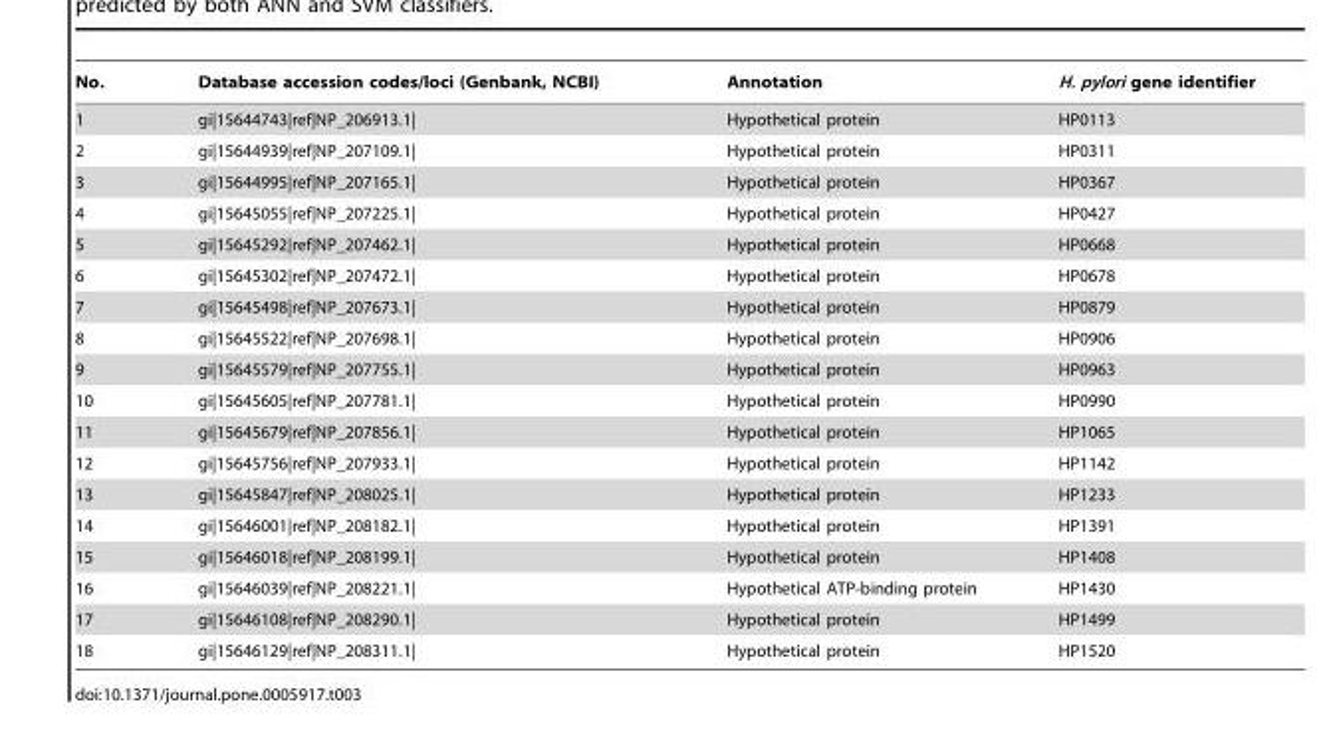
<table><thead><tr><td>No.</td><td>Database accession codes/loci (Genbank, NCBI)</td><td>Annotation</td><td>H. pylori gene identifier</td></tr></thead><tbody><tr><td>1</td><td>gi|15644743|ref|NP_206913.1|</td><td>Hypothetical protein</td><td>HP0113</td></tr><tr><td>2</td><td>gi|15644939|ref|NP_207109.1|</td><td>Hypothetical protein</td><td>HP0311</td></tr><tr><td>3</td><td>gi|15644995|ref|NP_207165.1|</td><td>Hypothetical protein</td><td>HP0367</td></tr><tr><td>4</td><td>gi|15645055|ref|NP_207225.1|</td><td>Hypothetical protein</td><td>HP0427</td></tr><tr><td>5</td><td>gi|15645292|ref|NP_207462.1|</td><td>Hypothetical protein</td><td>HP0668</td></tr><tr><td>6</td><td>gi|15645302|ref|NP_207472.1|</td><td>Hypothetical protein</td><td>HP0678</td></tr><tr><td>7</td><td>gi|15645498|ref|NP_207673.1|</td><td>Hypothetical protein</td><td>HP0879</td></tr><tr><td>8</td><td>gi|15645522|ref|NP_207698.1|</td><td>Hypothetical protein</td><td>HP0906</td></tr><tr><td>9</td><td>gi|15645579|ref|NP_207755.1|</td><td>Hypothetical protein</td><td>HP0963</td></tr><tr><td>10</td><td>gi|15645605|ref|NP_207781.1|</td><td>Hypothetical protein</td><td>HP0990</td></tr><tr><td>11</td><td>gi|15645679|ref|NP_207856.1|</td><td>Hypothetical protein</td><td>HP1065</td></tr><tr><td>12</td><td>gi|15645756|ref|NP_207933.1|</td><td>Hypothetical protein</td><td>HP1142</td></tr><tr><td>13</td><td>gi|15645847|ref|NP_208025.1|</td><td>Hypothetical protein</td><td>HP1233</td></tr><tr><td>14</td><td>gi|15646001|ref|NP_208182.1|</td><td>Hypothetical protein</td><td>HP1391</td></tr><tr><td>15</td><td>gi|15646018|ref|NP_208199.1|</td><td>Hypothetical protein</td><td>HP1408</td></tr><tr><td>16</td><td>gi|15646039|ref|NP_208221.1|</td><td>Hypothetical ATP-binding protein</td><td>HP1430</td></tr><tr><td>17</td><td>gi|15646108|ref|NP_208290.1|</td><td>Hypothetical protein</td><td>HP1499</td></tr><tr><td>18</td><td>gi|15646129|ref|NP_208311.1|</td><td>Hypothetical protein</td><td>HP1520</td></tr></tbody></table>